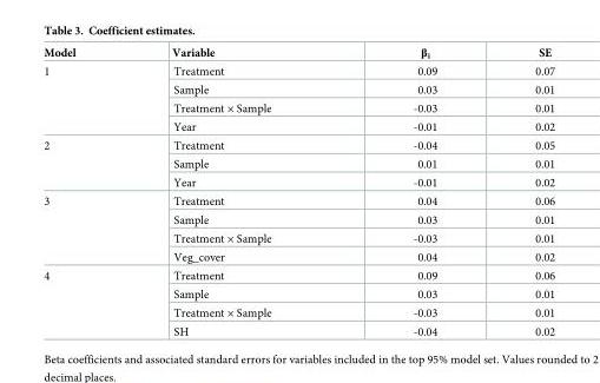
<table><thead><tr><td>Model</td><td>Variable</td><td>β<sub>i</sub></td><td>SE</td></tr></thead><tbody><tr><td rowspan="4">1</td><td>Treatment</td><td>0.09</td><td>0.07</td></tr><tr><td>Sample</td><td>0.03</td><td>0.01</td></tr><tr><td>Treatment × Sample</td><td>-0.03</td><td>0.01</td></tr><tr><td>Year</td><td>-0.01</td><td>0.02</td></tr><tr><td rowspan="3">2</td><td>Treatment</td><td>-0.04</td><td>0.05</td></tr><tr><td>Sample</td><td>0.01</td><td>0.01</td></tr><tr><td>Year</td><td>-0.01</td><td>0.02</td></tr><tr><td rowspan="4">3</td><td>Treatment</td><td>0.04</td><td>0.06</td></tr><tr><td>Sample</td><td>0.03</td><td>0.01</td></tr><tr><td>Treatment × Sample</td><td>-0.03</td><td>0.01</td></tr><tr><td>Veg_cover</td><td>0.04</td><td>0.02</td></tr><tr><td rowspan="4">4</td><td>Treatment</td><td>0.09</td><td>0.06</td></tr><tr><td>Sample</td><td>0.03</td><td>0.01</td></tr><tr><td>Treatment × Sample</td><td>-0.03</td><td>0.01</td></tr><tr><td>SH</td><td>-0.04</td><td>0.02</td></tr></tbody></table>